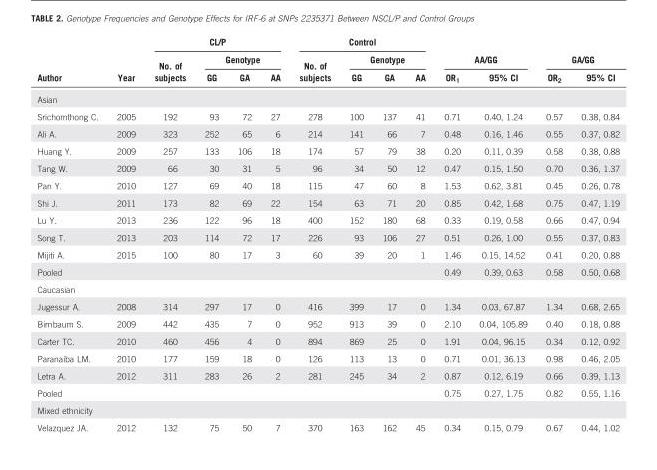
<table><thead><tr><td rowspan="3">Author</td><td rowspan="3">Year</td><td colspan="4">CL/P</td><td colspan="4">Control</td><td></td><td></td><td></td><td></td></tr><tr><td rowspan="2">No. of subjects</td><td colspan="3">Genotype</td><td rowspan="2">No. of subjects</td><td colspan="3">Genotype</td><td colspan="2">AA/GG</td><td colspan="2">GA/GG</td></tr><tr><td>GG</td><td>GA</td><td>AA</td><td>GG</td><td>GA</td><td>AA</td><td>OR<sub>1</sub></td><td>95% CI</td><td>OR<sub>2</sub></td><td>95% CI</td></tr></thead><tbody><tr><td colspan="14">Asian</td></tr><tr><td>Srichomthong C.</td><td>2005</td><td>192</td><td>93</td><td>72</td><td>27</td><td>278</td><td>100</td><td>137</td><td>41</td><td>0.71</td><td>0.40, 1.24</td><td>0.57</td><td>0.38, 0.84</td></tr><tr><td>Ali A.</td><td>2009</td><td>323</td><td>252</td><td>65</td><td>6</td><td>214</td><td>141</td><td>66</td><td>7</td><td>0.48</td><td>0.16, 1.46</td><td>0.55</td><td>0.37, 0.82</td></tr><tr><td>Huang Y.</td><td>2009</td><td>257</td><td>133</td><td>106</td><td>18</td><td>174</td><td>57</td><td>79</td><td>38</td><td>0.20</td><td>0.11, 0.39</td><td>0.58</td><td>0.38, 0.88</td></tr><tr><td>Tang W.</td><td>2009</td><td>66</td><td>30</td><td>31</td><td>5</td><td>96</td><td>34</td><td>50</td><td>12</td><td>0.47</td><td>0.15, 1.50</td><td>0.70</td><td>0.36, 1.37</td></tr><tr><td>Pan Y.</td><td>2010</td><td>127</td><td>69</td><td>40</td><td>18</td><td>115</td><td>47</td><td>60</td><td>8</td><td>1.53</td><td>0.62, 3.81</td><td>0.45</td><td>0.26, 0.78</td></tr><tr><td>Shi J.</td><td>2011</td><td>173</td><td>82</td><td>69</td><td>22</td><td>154</td><td>63</td><td>71</td><td>20</td><td>0.85</td><td>0.42, 1.68</td><td>0.75</td><td>0.47, 1.19</td></tr><tr><td>Lu Y.</td><td>2013</td><td>236</td><td>122</td><td>96</td><td>18</td><td>400</td><td>152</td><td>180</td><td>68</td><td>0.33</td><td>0.19, 0.58</td><td>0.66</td><td>0.47, 0.94</td></tr><tr><td>Song T.</td><td>2013</td><td>203</td><td>114</td><td>72</td><td>17</td><td>226</td><td>93</td><td>106</td><td>27</td><td>0.51</td><td>0.26, 1.00</td><td>0.55</td><td>0.37, 0.83</td></tr><tr><td>Mijiti A.</td><td>2015</td><td>100</td><td>80</td><td>17</td><td>3</td><td>60</td><td>39</td><td>20</td><td>1</td><td>1.46</td><td>0.15, 14.52</td><td>0.41</td><td>0.20, 0.88</td></tr><tr><td>Pooled</td><td></td><td></td><td></td><td></td><td></td><td></td><td></td><td></td><td></td><td>0.49</td><td>0.39, 0.63</td><td>0.58</td><td>0.50, 0.68</td></tr><tr><td colspan="14">Caucasian</td></tr><tr><td>Jugessur A.</td><td>2008</td><td>314</td><td>297</td><td>17</td><td>0</td><td>416</td><td>399</td><td>17</td><td>0</td><td>1.34</td><td>0.03, 67.87</td><td>1.34</td><td>0.68, 2.65</td></tr><tr><td>Birnbaum S.</td><td>2009</td><td>442</td><td>435</td><td>7</td><td>0</td><td>952</td><td>913</td><td>39</td><td>0</td><td>2.10</td><td>0.04, 105.89</td><td>0.40</td><td>0.18, 0.88</td></tr><tr><td>Carter TC.</td><td>2010</td><td>460</td><td>456</td><td>4</td><td>0</td><td>894</td><td>869</td><td>25</td><td>0</td><td>1.91</td><td>0.04, 96.15</td><td>0.34</td><td>0.12, 0.92</td></tr><tr><td>Paranaiba LM.</td><td>2010</td><td>177</td><td>159</td><td>18</td><td>0</td><td>126</td><td>113</td><td>13</td><td>0</td><td>0.71</td><td>0.01, 36.13</td><td>0.98</td><td>0.46, 2.05</td></tr><tr><td>Letra A.</td><td>2012</td><td>311</td><td>283</td><td>26</td><td>2</td><td>281</td><td>245</td><td>34</td><td>2</td><td>0.87</td><td>0.12, 6.19</td><td>0.66</td><td>0.39, 1.13</td></tr><tr><td>Pooled</td><td></td><td></td><td></td><td></td><td></td><td></td><td></td><td></td><td></td><td>0.75</td><td>0.27, 1.75</td><td>0.82</td><td>0.55, 1.16</td></tr><tr><td colspan="14">Mixed ethnicity</td></tr><tr><td>Velazquez JA.</td><td>2012</td><td>132</td><td>75</td><td>50</td><td>7</td><td>370</td><td>163</td><td>162</td><td>45</td><td>0.34</td><td>0.15, 0.79</td><td>0.67</td><td>0.44, 1.02</td></tr></tbody></table>